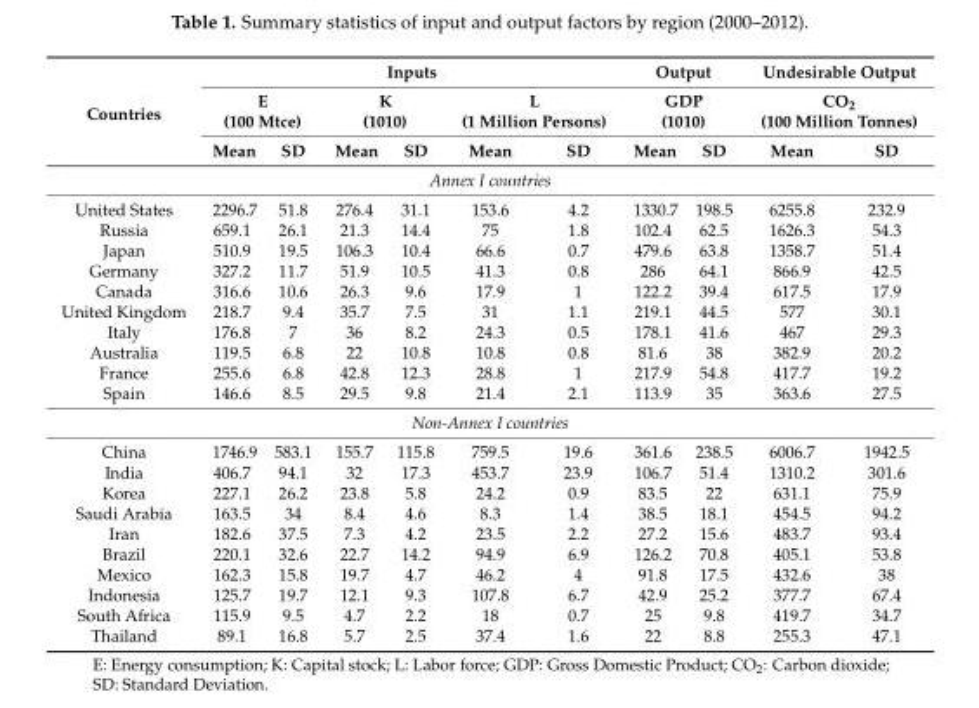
<table><thead><tr><td rowspan="3">Countries</td><td colspan="6">Inputs</td><td rowspan="2" colspan="2">Output GDP (1010)</td><td rowspan="2" colspan="2">Undesirable Output CO<sub>2</sub> (100 Million Tonnes)</td></tr><tr><td colspan="2">E (100 Mtce)</td><td colspan="2">K (1010)</td><td colspan="2">L (1 Million Persons)</td></tr><tr><td>Mean</td><td>SD</td><td>Mean</td><td>SD</td><td>Mean</td><td>SD</td><td>Mean</td><td>SD</td><td>Mean</td><td>SD</td></tr></thead><tbody><tr><td colspan="11">Annex I countries</td></tr><tr><td>United States</td><td>2296.7</td><td>51.8</td><td>276.4</td><td>31.1</td><td>153.6</td><td>4.2</td><td>1330.7</td><td>198.5</td><td>6255.8</td><td>232.9</td></tr><tr><td>Russia</td><td>659.1</td><td>26.1</td><td>21.3</td><td>14.4</td><td>75</td><td>1.8</td><td>102.4</td><td>62.5</td><td>1626.3</td><td>54.3</td></tr><tr><td>Japan</td><td>510.9</td><td>19.5</td><td>106.3</td><td>10.4</td><td>66.6</td><td>0.7</td><td>479.6</td><td>63.8</td><td>1358.7</td><td>51.4</td></tr><tr><td>Germany</td><td>327.2</td><td>11.7</td><td>51.9</td><td>10.5</td><td>41.3</td><td>0.8</td><td>286</td><td>64.1</td><td>866.9</td><td>42.5</td></tr><tr><td>Canada</td><td>316.6</td><td>10.6</td><td>26.3</td><td>9.6</td><td>17.9</td><td>1</td><td>122.2</td><td>39.4</td><td>617.5</td><td>17.9</td></tr><tr><td>United Kingdom</td><td>218.7</td><td>9.4</td><td>35.7</td><td>7.5</td><td>31</td><td>1.1</td><td>219.1</td><td>44.5</td><td>577</td><td>30.1</td></tr><tr><td>Italy</td><td>176.8</td><td>7</td><td>36</td><td>8.2</td><td>24.3</td><td>0.5</td><td>178.1</td><td>41.6</td><td>467</td><td>29.3</td></tr><tr><td>Australia</td><td>119.5</td><td>6.8</td><td>22</td><td>10.8</td><td>10.8</td><td>0.8</td><td>81.6</td><td>38</td><td>382.9</td><td>20.2</td></tr><tr><td>France</td><td>255.6</td><td>6.8</td><td>42.8</td><td>12.3</td><td>28.8</td><td>1</td><td>217.9</td><td>54.8</td><td>417.7</td><td>19.2</td></tr><tr><td>Spain</td><td>146.6</td><td>8.5</td><td>29.5</td><td>9.8</td><td>21.4</td><td>2.1</td><td>113.9</td><td>35</td><td>363.6</td><td>27.5</td></tr><tr><td colspan="11">Non-Annex I countries</td></tr><tr><td>China</td><td>1746.9</td><td>583.1</td><td>155.7</td><td>115.8</td><td>759.5</td><td>19.6</td><td>361.6</td><td>238.5</td><td>6006.7</td><td>1942.5</td></tr><tr><td>India</td><td>406.7</td><td>94.1</td><td>32</td><td>17.3</td><td>453.7</td><td>23.9</td><td>106.7</td><td>51.4</td><td>1310.2</td><td>301.6</td></tr><tr><td>Korea</td><td>227.1</td><td>26.2</td><td>23.8</td><td>5.8</td><td>24.2</td><td>0.9</td><td>83.5</td><td>22</td><td>631.1</td><td>75.9</td></tr><tr><td>Saudi Arabia</td><td>163.5</td><td>34</td><td>8.4</td><td>4.6</td><td>8.3</td><td>1.4</td><td>38.5</td><td>18.1</td><td>454.5</td><td>94.2</td></tr><tr><td>Iran</td><td>182.6</td><td>37.5</td><td>7.3</td><td>4.2</td><td>23.5</td><td>2.2</td><td>27.2</td><td>15.6</td><td>483.7</td><td>93.4</td></tr><tr><td>Brazil</td><td>220.1</td><td>32.6</td><td>22.7</td><td>14.2</td><td>94.9</td><td>6.9</td><td>126.2</td><td>70.8</td><td>405.1</td><td>53.8</td></tr><tr><td>Mexico</td><td>162.3</td><td>15.8</td><td>19.7</td><td>4.7</td><td>46.2</td><td>4</td><td>91.8</td><td>17.5</td><td>432.6</td><td>38</td></tr><tr><td>Indonesia</td><td>125.7</td><td>19.7</td><td>12.1</td><td>9.3</td><td>107.8</td><td>6.7</td><td>42.9</td><td>25.2</td><td>377.7</td><td>67.4</td></tr><tr><td>South Africa</td><td>115.9</td><td>9.5</td><td>4.7</td><td>2.2</td><td>18</td><td>0.7</td><td>25</td><td>9.8</td><td>419.7</td><td>34.7</td></tr><tr><td>Thailand</td><td>89.1</td><td>16.8</td><td>5.7</td><td>2.5</td><td>37.4</td><td>1.6</td><td>22</td><td>8.8</td><td>255.3</td><td>47.1</td></tr></tbody></table>